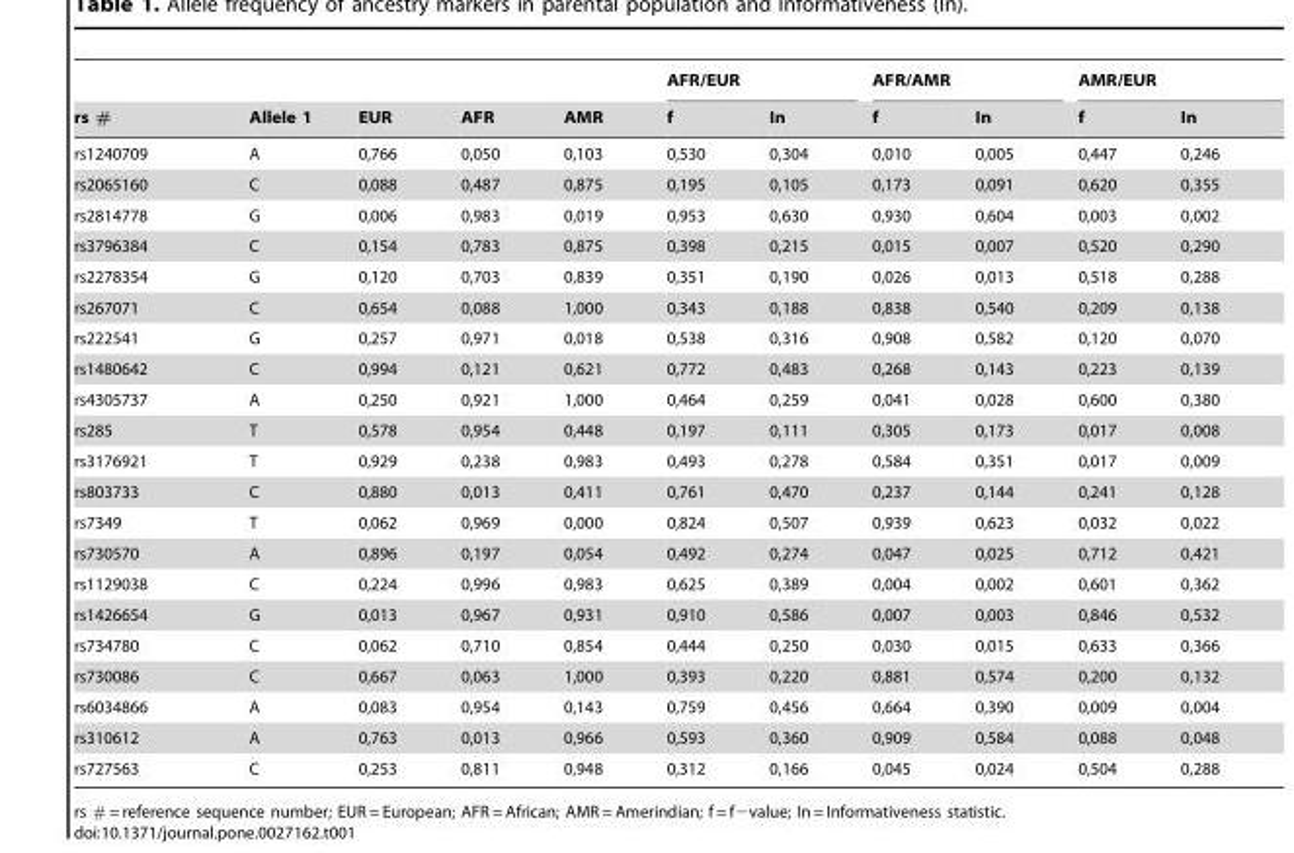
<table><thead><tr><td rowspan="2">rs #</td><td rowspan="2">Allele 1</td><td rowspan="2">EUR</td><td rowspan="2">AFR</td><td rowspan="2">AMR</td><td colspan="2">AFR/EUR</td><td colspan="2">AFR/AMR</td><td colspan="2">AMR/EUR</td></tr><tr><td>f</td><td>In</td><td>f</td><td>In</td><td>f</td><td>In</td></tr></thead><tbody><tr><td>rs1240709</td><td>A</td><td>0,766</td><td>0,050</td><td>0,103</td><td>0,530</td><td>0,304</td><td>0,010</td><td>0,005</td><td>0,447</td><td>0,246</td></tr><tr><td>rs2065160</td><td>C</td><td>0,088</td><td>0,487</td><td>0,875</td><td>0,195</td><td>0,105</td><td>0,173</td><td>0,091</td><td>0,620</td><td>0,355</td></tr><tr><td>rs2814778</td><td>G</td><td>0,006</td><td>0,983</td><td>0,019</td><td>0,953</td><td>0,630</td><td>0,930</td><td>0,604</td><td>0,003</td><td>0,002</td></tr><tr><td>rs3796384</td><td>C</td><td>0,154</td><td>0,783</td><td>0,875</td><td>0,398</td><td>0,215</td><td>0,015</td><td>0,007</td><td>0,520</td><td>0,290</td></tr><tr><td>rs2278354</td><td>G</td><td>0,120</td><td>0,703</td><td>0,839</td><td>0,351</td><td>0,190</td><td>0,026</td><td>0,013</td><td>0,518</td><td>0,288</td></tr><tr><td>rs267071</td><td>C</td><td>0,654</td><td>0,088</td><td>1,000</td><td>0,343</td><td>0,188</td><td>0,838</td><td>0,540</td><td>0,209</td><td>0,138</td></tr><tr><td>rs222541</td><td>G</td><td>0,257</td><td>0,971</td><td>0,018</td><td>0,538</td><td>0,316</td><td>0,908</td><td>0,582</td><td>0,120</td><td>0,070</td></tr><tr><td>rs1480642</td><td>C</td><td>0,994</td><td>0,121</td><td>0,621</td><td>0,772</td><td>0,483</td><td>0,268</td><td>0,143</td><td>0,223</td><td>0,139</td></tr><tr><td>rs4305737</td><td>A</td><td>0,250</td><td>0,921</td><td>1,000</td><td>0,464</td><td>0,259</td><td>0,041</td><td>0,028</td><td>0,600</td><td>0,380</td></tr><tr><td>rs285</td><td>T</td><td>0,578</td><td>0,954</td><td>0,448</td><td>0,197</td><td>0,111</td><td>0,305</td><td>0,173</td><td>0,017</td><td>0,008</td></tr><tr><td>rs3176921</td><td>T</td><td>0,929</td><td>0,238</td><td>0,983</td><td>0,493</td><td>0,278</td><td>0,584</td><td>0,351</td><td>0,017</td><td>0,009</td></tr><tr><td>rs803733</td><td>C</td><td>0,880</td><td>0,013</td><td>0,411</td><td>0,761</td><td>0,470</td><td>0,237</td><td>0,144</td><td>0,241</td><td>0,128</td></tr><tr><td>rs7349</td><td>T</td><td>0,062</td><td>0,969</td><td>0,000</td><td>0,824</td><td>0,507</td><td>0,939</td><td>0,623</td><td>0,032</td><td>0,022</td></tr><tr><td>rs730570</td><td>A</td><td>0,896</td><td>0,197</td><td>0,054</td><td>0,492</td><td>0,274</td><td>0,047</td><td>0,025</td><td>0,712</td><td>0,421</td></tr><tr><td>rs1129038</td><td>C</td><td>0,224</td><td>0,996</td><td>0,983</td><td>0,625</td><td>0,389</td><td>0,004</td><td>0,002</td><td>0,601</td><td>0,362</td></tr><tr><td>rs1426654</td><td>G</td><td>0,013</td><td>0,967</td><td>0,931</td><td>0,910</td><td>0,586</td><td>0,007</td><td>0,003</td><td>0,846</td><td>0,532</td></tr><tr><td>rs734780</td><td>C</td><td>0,062</td><td>0,710</td><td>0,854</td><td>0,444</td><td>0,250</td><td>0,030</td><td>0,015</td><td>0,633</td><td>0,366</td></tr><tr><td>rs730086</td><td>C</td><td>0,667</td><td>0,063</td><td>1,000</td><td>0,393</td><td>0,220</td><td>0,881</td><td>0,574</td><td>0,200</td><td>0,132</td></tr><tr><td>rs6034866</td><td>A</td><td>0,083</td><td>0,954</td><td>0,143</td><td>0,759</td><td>0,456</td><td>0,664</td><td>0,390</td><td>0,009</td><td>0,004</td></tr><tr><td>rs310612</td><td>A</td><td>0,763</td><td>0,013</td><td>0,966</td><td>0,593</td><td>0,360</td><td>0,909</td><td>0,584</td><td>0,088</td><td>0,048</td></tr><tr><td>rs727563</td><td>C</td><td>0,253</td><td>0,811</td><td>0,948</td><td>0,312</td><td>0,166</td><td>0,045</td><td>0,024</td><td>0,504</td><td>0,288</td></tr></tbody></table>